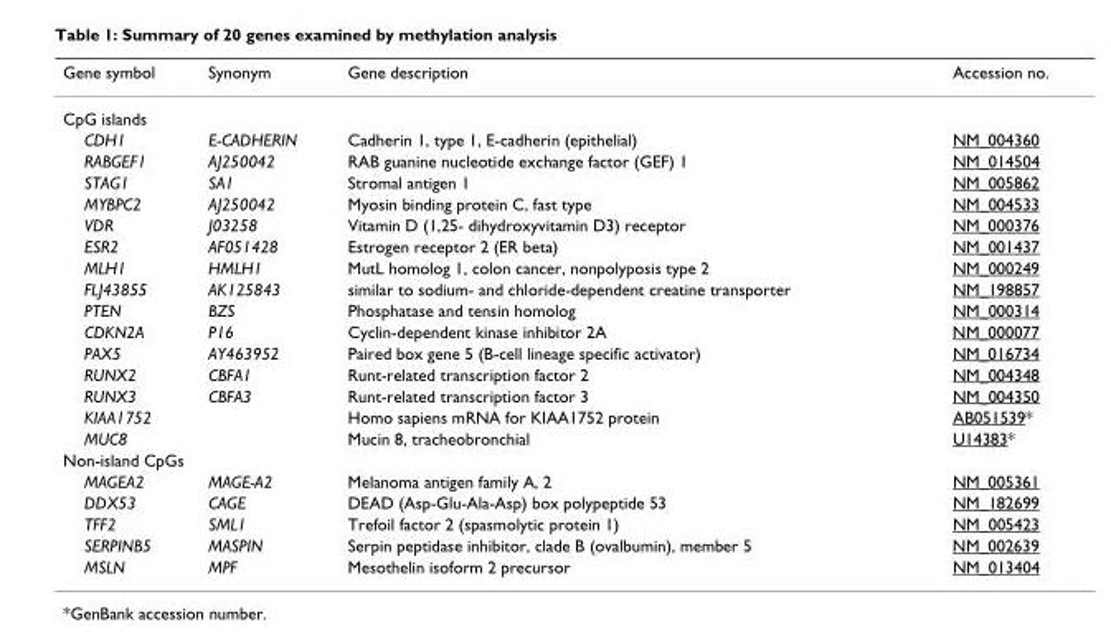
<table><thead><tr><td>Gene symbol</td><td>Synonym</td><td>Gene description</td><td>Accession no.</td></tr></thead><tbody><tr><td colspan="4">CpG islands</td></tr><tr><td>CDH1</td><td>E-CADHERIN</td><td>Cadherin 1, type 1, E-cadherin (epithelial)</td><td>NM_004360</td></tr><tr><td>RABGEF1</td><td>AJ250042</td><td>RAB guanine nucleotide exchange factor (GEF) 1</td><td>NM_014504</td></tr><tr><td>STAG1</td><td>SA1</td><td>Stromal antigen 1</td><td>NM_005862</td></tr><tr><td>MYBPC2</td><td>AJ250042</td><td>Myosin binding protein C, fast type</td><td>NM_004533</td></tr><tr><td>VDR</td><td>J03258</td><td>Vitamin D (1,25- dihydroxyvitamin D3) receptor</td><td>NM_000376</td></tr><tr><td>ESR2</td><td>AF051428</td><td>Estrogen receptor 2 (ER beta)</td><td>NM_001437</td></tr><tr><td>MLH1</td><td>HMLH1</td><td>MutL homolog 1, colon cancer, nonpolyposis type 2</td><td>NM_000249</td></tr><tr><td>FLJ43855</td><td>AK125843</td><td>similar to sodium- and chloride-dependent creatine transporter</td><td>NM_198857</td></tr><tr><td>PTEN</td><td>BZS</td><td>Phosphatase and tensin homolog</td><td>NM_000314</td></tr><tr><td>CDKN2A</td><td>P16</td><td>Cyclin-dependent kinase inhibitor 2A</td><td>NM_000077</td></tr><tr><td>PAX5</td><td>AY463952</td><td>Paired box gene 5 (B-cell lineage specific activator)</td><td>NM_016734</td></tr><tr><td>RUNX2</td><td>CBFA1</td><td>Runt-related transcription factor 2</td><td>NM_004348</td></tr><tr><td>RUNX3</td><td>CBFA3</td><td>Runt-related transcription factor 3</td><td>NM_004350</td></tr><tr><td>KIAA1752</td><td></td><td>Homo sapiens mRNA for KIAA1752 protein</td><td>AB051539*</td></tr><tr><td>MUC8</td><td></td><td>Mucin 8, tracheobronchial</td><td>U14383*</td></tr><tr><td colspan="4">Non-island CpGs</td></tr><tr><td>MAGEA2</td><td>MAGE-A2</td><td>Melanoma antigen family A, 2</td><td>NM_005361</td></tr><tr><td>DDX53</td><td>CAGE</td><td>DEAD (Asp-Glu-Ala-Asp) box polypeptide 53</td><td>NM_182699</td></tr><tr><td>TFF2</td><td>SML1</td><td>Trefoil factor 2 (spasmolytic protein 1)</td><td>NM_005423</td></tr><tr><td>SERPINB5</td><td>MASPIN</td><td>Serpin peptidase inhibitor, clade B (ovalbumin), member 5</td><td>NM_002639</td></tr><tr><td>MSLN</td><td>MPF</td><td>Mesothelin isoform 2 precursor</td><td>NM_013404</td></tr></tbody></table>